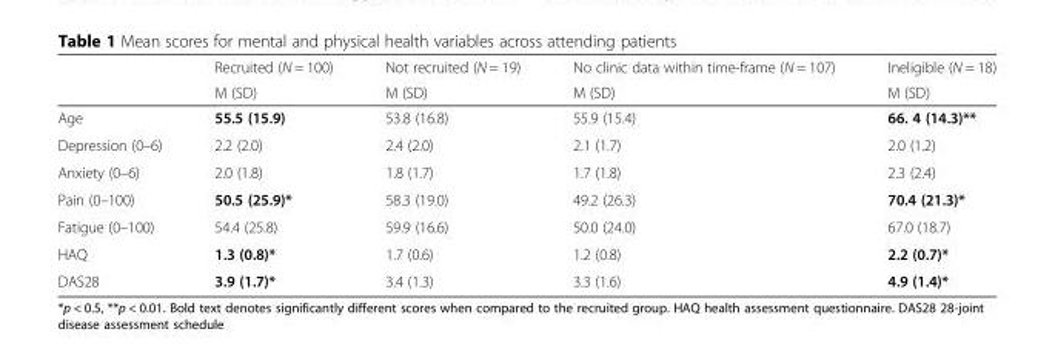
<table><thead><tr><td rowspan="2"></td><td rowspan="2">Recruited (N = 100) M (SD)</td><td rowspan="2">Not recruited (N = 19) M (SD)</td><td rowspan="2">No clinic data within time-frame (N = 107) M (SD)</td><td rowspan="2">Ineligible (N = 18) M (SD)</td></tr><tr></tr></thead><tbody><tr><td>Age</td><td>55.5 (15.9)</td><td>53.8 (16.8)</td><td>55.9 (15.4)</td><td>66. 4 (14.3)**</td></tr><tr><td>Depression (0–6)</td><td>2.2 (2.0)</td><td>2.4 (2.0)</td><td>2.1 (1.7)</td><td>2.0 (1.2)</td></tr><tr><td>Anxiety (0–6)</td><td>2.0 (1.8)</td><td>1.8 (1.7)</td><td>1.7 (1.8)</td><td>2.3 (2.4)</td></tr><tr><td>Pain (0–100)</td><td>50.5 (25.9)*</td><td>58.3 (19.0)</td><td>49.2 (26.3)</td><td>70.4 (21.3)*</td></tr><tr><td>Fatigue (0–100)</td><td>54.4 (25.8)</td><td>59.9 (16.6)</td><td>50.0 (24.0)</td><td>67.0 (18.7)</td></tr><tr><td>HAQ</td><td>1.3 (0.8)*</td><td>1.7 (0.6)</td><td>1.2 (0.8)</td><td>2.2 (0.7)*</td></tr><tr><td>DAS28</td><td>3.9 (1.7)*</td><td>3.4 (1.3)</td><td>3.3 (1.6)</td><td>4.9 (1.4)*</td></tr></tbody></table>